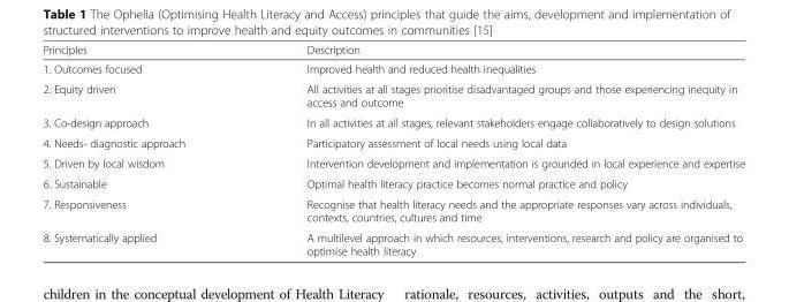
<table><thead><tr><td>Principles</td><td>Description</td></tr></thead><tbody><tr><td>1. Outcomes focused</td><td>Improved health and reduced health inequalities</td></tr><tr><td>2. Equity driven</td><td>All activities at all stages prioritise disadvantaged groups and those experiencing inequity in access and outcome</td></tr><tr><td>3. Co-design approach</td><td>In all activities at all stages, relevant stakeholders engage collaboratively to design solutions</td></tr><tr><td>4. Needs- diagnostic approach</td><td>Participatory assessment of local needs using local data</td></tr><tr><td>5. Driven by local wisdom</td><td>Intervention development and implementation is grounded in local experience and expertise</td></tr><tr><td>6. Sustainable</td><td>Optimal health literacy practice becomes normal practice and policy</td></tr><tr><td>7. Responsiveness</td><td>Recognise that health literacy needs and the appropriate responses vary across individuals, contexts, countries, cultures and time</td></tr><tr><td>8. Systematically applied</td><td>A multilevel approach in which resources, interventions, research and policy are organised to optimise health literacy</td></tr></tbody></table>